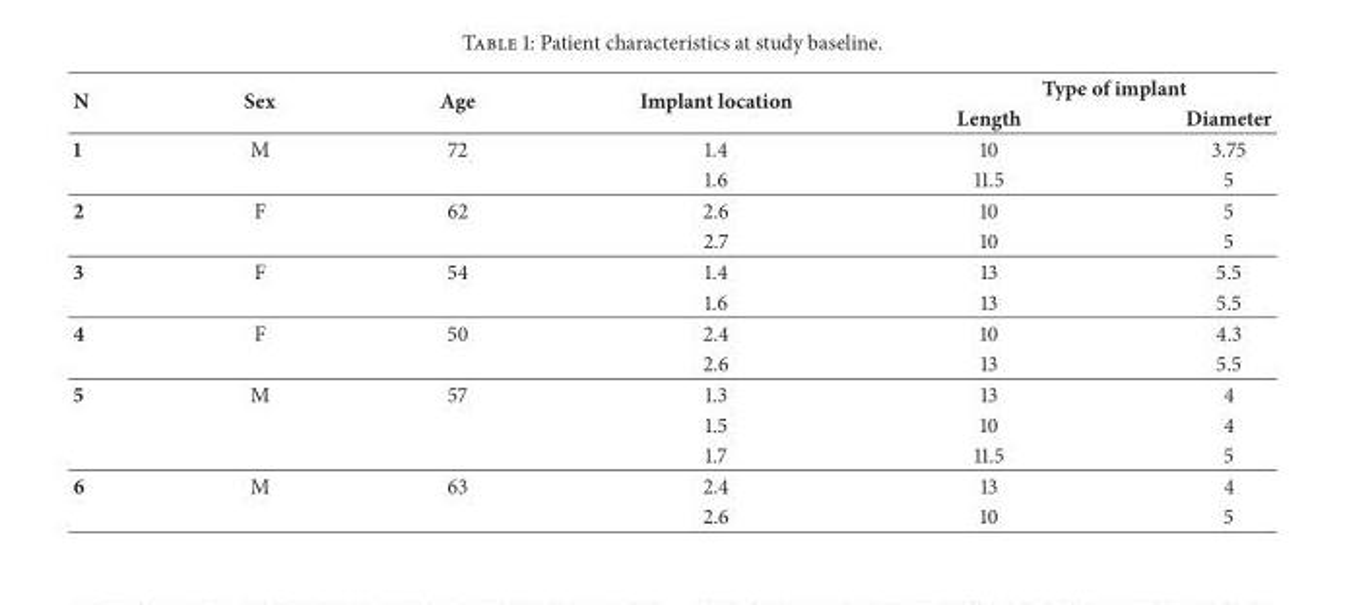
<table><thead><tr><td rowspan="2">N</td><td rowspan="2">Sex</td><td rowspan="2">Age</td><td rowspan="2">Implant location</td><td colspan="2">Type of implant</td></tr><tr><td>Length</td><td>Diameter</td></tr></thead><tbody><tr><td rowspan="2">1</td><td>M</td><td>72</td><td>1.4</td><td>10</td><td>3.75</td></tr><tr><td></td><td></td><td>1.6</td><td>11.5</td><td>5</td></tr><tr><td rowspan="2">2</td><td>F</td><td>62</td><td>2.6</td><td>10</td><td>5</td></tr><tr><td></td><td></td><td>2.7</td><td>10</td><td>5</td></tr><tr><td rowspan="2">3</td><td>F</td><td>54</td><td>1.4</td><td>13</td><td>5.5</td></tr><tr><td></td><td></td><td>1.6</td><td>13</td><td>5.5</td></tr><tr><td rowspan="2">4</td><td>F</td><td>50</td><td>2.4</td><td>10</td><td>4.3</td></tr><tr><td></td><td></td><td>2.6</td><td>13</td><td>5.5</td></tr><tr><td rowspan="3">5</td><td>M</td><td>57</td><td>1.3</td><td>13</td><td>4</td></tr><tr><td></td><td></td><td>1.5</td><td>10</td><td>4</td></tr><tr><td></td><td></td><td>1.7</td><td>11.5</td><td>5</td></tr><tr><td rowspan="2">6</td><td>M</td><td>63</td><td>2.4</td><td>13</td><td>4</td></tr><tr><td></td><td></td><td>2.6</td><td>10</td><td>5</td></tr></tbody></table>